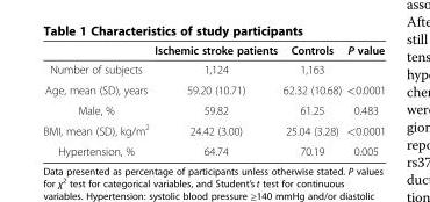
<table><thead><tr><td></td><td>Ischemic stroke patients</td><td>Controls</td><td>P value</td></tr></thead><tbody><tr><td>Number of subjects</td><td>1,124</td><td>1,163</td><td></td></tr><tr><td>Age, mean (SD), years</td><td>59.20 (10.71)</td><td>62.32 (10.68)</td><td>&lt;0.0001</td></tr><tr><td>Male, %</td><td>59.82</td><td>61.25</td><td>0.483</td></tr><tr><td>BMI, mean (SD), kg/m<sup>2</sup></td><td>24.42 (3.00)</td><td>25.04 (3.28)</td><td>&lt;0.0001</td></tr><tr><td>Hypertension, %</td><td>64.74</td><td>70.19</td><td>0.005</td></tr></tbody></table>